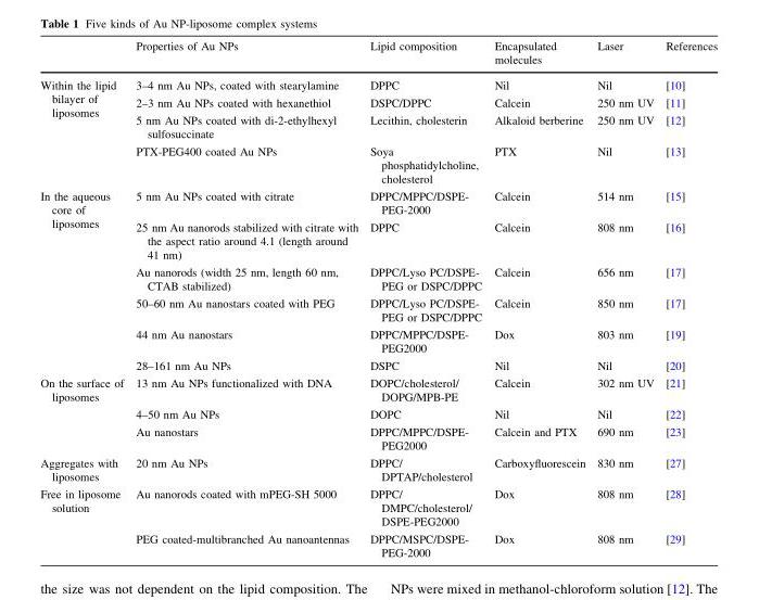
<table><thead><tr><td></td><td>Properties of Au NPs</td><td>Lipid composition</td><td>Encapsulated molecules</td><td>Laser</td><td>References</td></tr></thead><tbody><tr><td rowspan="4">Within the lipid bilayer of liposomes</td><td>3–4 nm Au NPs, coated with stearylamine</td><td>DPPC</td><td>Nil</td><td>Nil</td><td>[10]</td></tr><tr><td>2–3 nm Au NPs coated with hexanethiol</td><td>DSPC/DPPC</td><td>Calcein</td><td>250 nm UV</td><td>[11]</td></tr><tr><td>5 nm Au NPs coated with di-2-ethylhexyl sulfosuccinate</td><td>Lecithin, cholesterin</td><td>Alkaloid berberine</td><td>250 nm UV</td><td>[12]</td></tr><tr><td>PTX-PEG400 coated Au NPs</td><td>Soya phosphatidylcholine, cholesterol</td><td>PTX</td><td>Nil</td><td>[13]</td></tr><tr><td rowspan="6">In the aqueous core of liposomes</td><td>5 nm Au NPs coated with citrate</td><td>DPPC/MPPC/DSPE- PEG-2000</td><td>Calcein</td><td>514 nm</td><td>[15]</td></tr><tr><td>25 nm Au nanorods stabilized with citrate with the aspect ratio around 4.1 (length around 41 nm)</td><td>DPPC</td><td>Calcein</td><td>808 nm</td><td>[16]</td></tr><tr><td>Au nanorods (width 25 nm, length 60 nm, CTAB stabilized)</td><td>DPPC/Lyso PC/DSPE- PEG or DSPC/DPPC</td><td>Calcein</td><td>656 nm</td><td>[17]</td></tr><tr><td>50–60 nm Au nanostars coated with PEG</td><td>DPPC/Lyso PC/DSPE- PEG or DSPC/DPPC</td><td>Calcein</td><td>850 nm</td><td>[17]</td></tr><tr><td>44 nm Au nanostars</td><td>DPPC/MPPC/DSPE- PEG2000</td><td>Dox</td><td>803 nm</td><td>[19]</td></tr><tr><td>28–161 nm Au NPs</td><td>DSPC</td><td>Nil</td><td>Nil</td><td>[20]</td></tr><tr><td rowspan="3">On the surface of liposomes</td><td>13 nm Au NPs functionalized with DNA</td><td>DOPC/cholesterol/ DOPG/MPB-PE</td><td>Calcein</td><td>302 nm UV</td><td>[21]</td></tr><tr><td>4–50 nm Au NPs</td><td>DOPC</td><td>Nil</td><td>Nil</td><td>[22]</td></tr><tr><td>Au nanostars</td><td>DPPC/MPPC/DSPE- PEG2000</td><td>Calcein and PTX</td><td>690 nm</td><td>[23]</td></tr><tr><td>Aggregates with liposomes</td><td>20 nm Au NPs</td><td>DPPC/ DPTAP/cholesterol</td><td>Carboxyfluorescein</td><td>830 nm</td><td>[27]</td></tr><tr><td rowspan="2">Free in liposome solution</td><td>Au nanorods coated with mPEG-SH 5000</td><td>DPPC/ DMPC/cholesterol/ DSPE-PEG2000</td><td>Dox</td><td>808 nm</td><td>[28]</td></tr><tr><td>PEG coated-multibranched Au nanoantennas</td><td>DPPC/MSPC/DSPE- PEG-2000</td><td>Dox</td><td>808 nm</td><td>[29]</td></tr></tbody></table>